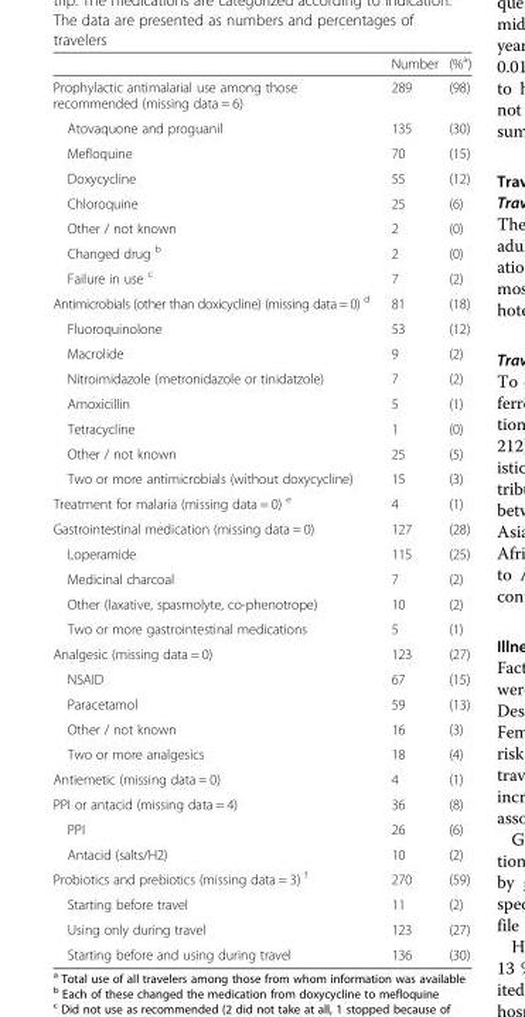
<table><thead><tr><td></td><td>Number</td><td>(%<sup>a</sup>)</td></tr></thead><tbody><tr><td>Prophylactic antimalarial use among those recommended (missing data = 6)</td><td>289</td><td>(98)</td></tr><tr><td>Atovaquone and proguanil</td><td>135</td><td>(30)</td></tr><tr><td>Mefloquine</td><td>70</td><td>(15)</td></tr><tr><td>Doxycycline</td><td>55</td><td>(12)</td></tr><tr><td>Chloroquine</td><td>25</td><td>(6)</td></tr><tr><td>Other / not known</td><td>2</td><td>(0)</td></tr><tr><td>Changed drug <sup>b</sup></td><td>2</td><td>(0)</td></tr><tr><td>Failure in use <sup>c</sup></td><td>7</td><td>(2)</td></tr><tr><td>Antimicrobials (other than doxicycline) (missing data = 0) <sup>d</sup></td><td>81</td><td>(18)</td></tr><tr><td>Fluoroquinolone</td><td>53</td><td>(12)</td></tr><tr><td>Macrolide</td><td>9</td><td>(2)</td></tr><tr><td>Nitroimidazole (metronidazole or tinidatzole)</td><td>7</td><td>(2)</td></tr><tr><td>Amoxicillin</td><td>5</td><td>(1)</td></tr><tr><td>Tetracycline</td><td>1</td><td>(0)</td></tr><tr><td>Other / not known</td><td>25</td><td>(5)</td></tr><tr><td>Two or more antimicrobials (without doxycycline)</td><td>15</td><td>(3)</td></tr><tr><td>Treatment for malaria (missing data = 0) <sup>e</sup></td><td>4</td><td>(1)</td></tr><tr><td>Gastrointestinal medication (missing data = 0)</td><td>127</td><td>(28)</td></tr><tr><td>Loperamide</td><td>115</td><td>(25)</td></tr><tr><td>Medicinal charcoal</td><td>7</td><td>(2)</td></tr><tr><td>Other (laxative, spasmolyte, co-phenotrope)</td><td>10</td><td>(2)</td></tr><tr><td>Two or more gastrointestinal medications</td><td>5</td><td>(1)</td></tr><tr><td>Analgesic (missing data = 0)</td><td>123</td><td>(27)</td></tr><tr><td>NSAID</td><td>67</td><td>(15)</td></tr><tr><td>Paracetamol</td><td>59</td><td>(13)</td></tr><tr><td>Other / not known</td><td>16</td><td>(3)</td></tr><tr><td>Two or more analgesics</td><td>18</td><td>(4)</td></tr><tr><td>Antiemetic (missing data = 0)</td><td>4</td><td>(1)</td></tr><tr><td>PPI or antacid (missing data = 4)</td><td>36</td><td>(8)</td></tr><tr><td>PPI</td><td>26</td><td>(6)</td></tr><tr><td>Antacid (salts/H2)</td><td>10</td><td>(2)</td></tr><tr><td>Probiotics and prebiotics (missing data = 3) <sup>f</sup></td><td>270</td><td>(59)</td></tr><tr><td>Starting before travel</td><td>11</td><td>(2)</td></tr><tr><td>Using only during travel</td><td>123</td><td>(27)</td></tr><tr><td>Starting before and using during travel</td><td>136</td><td>(30)</td></tr></tbody></table>